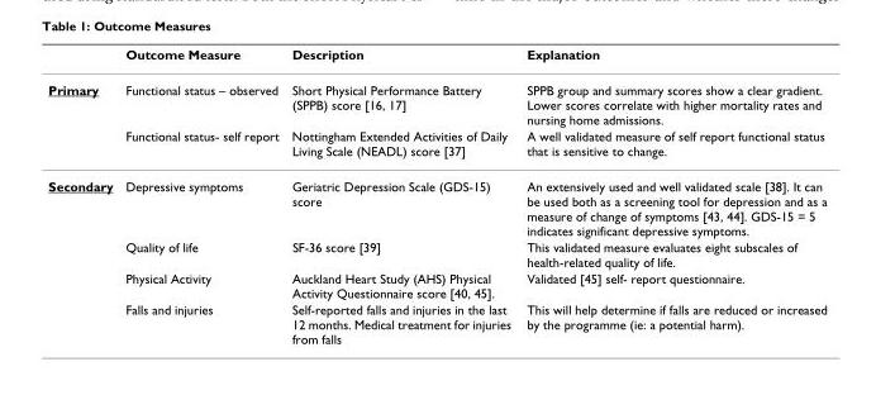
<table><thead><tr><td></td><td>Outcome Measure</td><td>Description</td><td>Explanation</td></tr></thead><tbody><tr><td rowspan="2">Primary</td><td>Functional status – observed</td><td>Short Physical Performance Battery (SPPB) score [16, 17]</td><td>SPPB group and summary scores show a clear gradient. Lower scores correlate with higher mortality rates and nursing home admissions.</td></tr><tr><td>Functional status- self report</td><td>Nottingham Extended Activities of Daily Living Scale (NEADL) score [37]</td><td>A well validated measure of self report functional status that is sensitive to change.</td></tr><tr><td rowspan="4">Secondary</td><td>Depressive symptoms</td><td>Geriatric Depression Scale (GDS-15) score</td><td>An extensively used and well validated scale [38]. It can be used both as a screening tool for depression and as a measure of change of symptoms [43, 44]. GDS-15 = 5 indicates significant depressive symptoms.</td></tr><tr><td>Quality of life</td><td>SF-36 score [39]</td><td>This validated measure evaluates eight subscales of health-related quality of life.</td></tr><tr><td>Physical Activity</td><td>Auckland Heart Study (AHS) Physical Activity Questionnaire score [40, 45].</td><td>Validated [45] self- report questionnaire.</td></tr><tr><td>Falls and injuries</td><td>Self-reported falls and injuries in the last 12 months. Medical treatment for injuries from falls</td><td>This will help determine if falls are reduced or increased by the programme (ie: a potential harm).</td></tr></tbody></table>